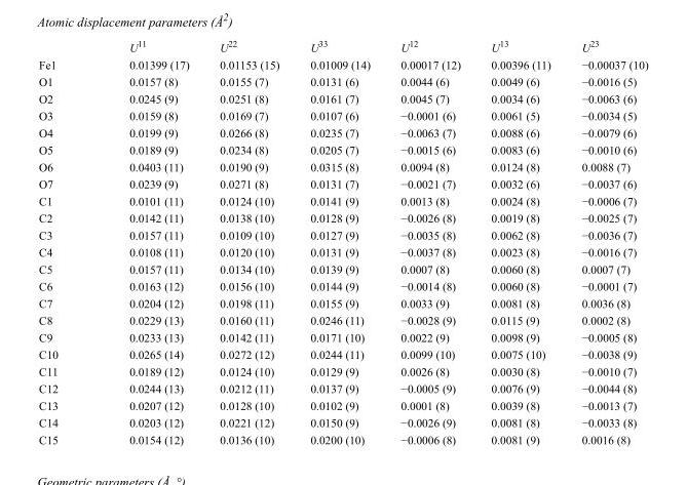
<table><thead><tr><td></td><td>U<sup>11</sup></td><td>U<sup>22</sup></td><td>U<sup>33</sup></td><td>U<sup>12</sup></td><td>U<sup>13</sup></td><td>U<sup>23</sup></td></tr></thead><tbody><tr><td>Fe1</td><td>0.01399 (17)</td><td>0.01153 (15)</td><td>0.01009 (14)</td><td>0.00017 (12)</td><td>0.00396 (11)</td><td>−0.00037 (10)</td></tr><tr><td>O1</td><td>0.0157 (8)</td><td>0.0155 (7)</td><td>0.0131 (6)</td><td>0.0044 (6)</td><td>0.0049 (6)</td><td>−0.0016 (5)</td></tr><tr><td>O2</td><td>0.0245 (9)</td><td>0.0251 (8)</td><td>0.0161 (7)</td><td>0.0045 (7)</td><td>0.0034 (6)</td><td>−0.0063 (6)</td></tr><tr><td>O3</td><td>0.0159 (8)</td><td>0.0169 (7)</td><td>0.0107 (6)</td><td>−0.0001 (6)</td><td>0.0061 (5)</td><td>−0.0034 (5)</td></tr><tr><td>O4</td><td>0.0199 (9)</td><td>0.0266 (8)</td><td>0.0235 (7)</td><td>−0.0063 (7)</td><td>0.0088 (6)</td><td>−0.0079 (6)</td></tr><tr><td>O5</td><td>0.0189 (9)</td><td>0.0234 (8)</td><td>0.0205 (7)</td><td>−0.0015 (6)</td><td>0.0083 (6)</td><td>−0.0010 (6)</td></tr><tr><td>O6</td><td>0.0403 (11)</td><td>0.0190 (9)</td><td>0.0315 (8)</td><td>0.0094 (8)</td><td>0.0124 (8)</td><td>0.0088 (7)</td></tr><tr><td>O7</td><td>0.0239 (9)</td><td>0.0271 (8)</td><td>0.0131 (7)</td><td>−0.0021 (7)</td><td>0.0032 (6)</td><td>−0.0037 (6)</td></tr><tr><td>C1</td><td>0.0101 (11)</td><td>0.0124 (10)</td><td>0.0141 (9)</td><td>0.0013 (8)</td><td>0.0024 (8)</td><td>−0.0006 (7)</td></tr><tr><td>C2</td><td>0.0142 (11)</td><td>0.0138 (10)</td><td>0.0128 (9)</td><td>−0.0026 (8)</td><td>0.0019 (8)</td><td>−0.0025 (7)</td></tr><tr><td>C3</td><td>0.0157 (11)</td><td>0.0109 (10)</td><td>0.0127 (9)</td><td>−0.0035 (8)</td><td>0.0062 (8)</td><td>−0.0036 (7)</td></tr><tr><td>C4</td><td>0.0108 (11)</td><td>0.0120 (10)</td><td>0.0131 (9)</td><td>−0.0037 (8)</td><td>0.0023 (8)</td><td>−0.0016 (7)</td></tr><tr><td>C5</td><td>0.0157 (11)</td><td>0.0134 (10)</td><td>0.0139 (9)</td><td>0.0007 (8)</td><td>0.0060 (8)</td><td>0.0007 (7)</td></tr><tr><td>C6</td><td>0.0163 (12)</td><td>0.0156 (10)</td><td>0.0144 (9)</td><td>−0.0014 (8)</td><td>0.0060 (8)</td><td>−0.0001 (7)</td></tr><tr><td>C7</td><td>0.0204 (12)</td><td>0.0198 (11)</td><td>0.0155 (9)</td><td>0.0033 (9)</td><td>0.0081 (8)</td><td>0.0036 (8)</td></tr><tr><td>C8</td><td>0.0229 (13)</td><td>0.0160 (11)</td><td>0.0246 (11)</td><td>−0.0028 (9)</td><td>0.0115 (9)</td><td>0.0002 (8)</td></tr><tr><td>C9</td><td>0.0233 (13)</td><td>0.0142 (11)</td><td>0.0171 (10)</td><td>0.0022 (9)</td><td>0.0098 (9)</td><td>−0.0005 (8)</td></tr><tr><td>C10</td><td>0.0265 (14)</td><td>0.0272 (12)</td><td>0.0244 (11)</td><td>0.0099 (10)</td><td>0.0075 (10)</td><td>−0.0038 (9)</td></tr><tr><td>C11</td><td>0.0189 (12)</td><td>0.0124 (10)</td><td>0.0129 (9)</td><td>0.0026 (8)</td><td>0.0030 (8)</td><td>−0.0010 (7)</td></tr><tr><td>C12</td><td>0.0244 (13)</td><td>0.0212 (11)</td><td>0.0137 (9)</td><td>−0.0005 (9)</td><td>0.0076 (9)</td><td>−0.0044 (8)</td></tr><tr><td>C13</td><td>0.0207 (12)</td><td>0.0128 (10)</td><td>0.0102 (9)</td><td>0.0001 (8)</td><td>0.0039 (8)</td><td>−0.0013 (7)</td></tr><tr><td>C14</td><td>0.0203 (12)</td><td>0.0221 (12)</td><td>0.0150 (9)</td><td>−0.0026 (9)</td><td>0.0081 (8)</td><td>−0.0033 (8)</td></tr><tr><td>C15</td><td>0.0154 (12)</td><td>0.0136 (10)</td><td>0.0200 (10)</td><td>−0.0006 (8)</td><td>0.0081 (9)</td><td>0.0016 (8)</td></tr></tbody></table>